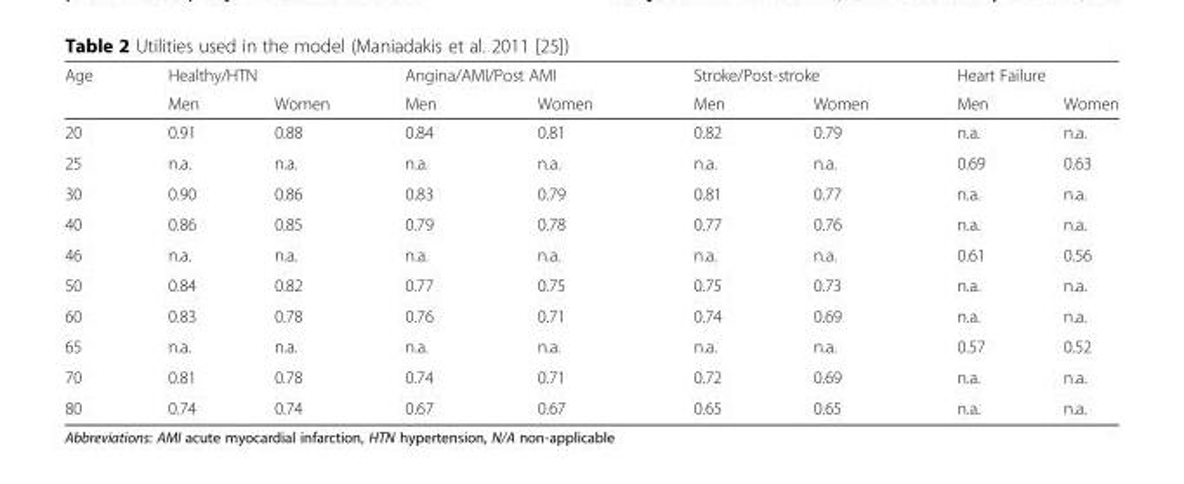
<table><thead><tr><td rowspan="2">Age</td><td colspan="2">Healthy/HTN</td><td colspan="2">Angina/AMI/Post AMI</td><td colspan="2">Stroke/Post-stroke</td><td colspan="2">Heart Failure</td></tr><tr><td>Men</td><td>Women</td><td>Men</td><td>Women</td><td>Men</td><td>Women</td><td>Men</td><td>Women</td></tr></thead><tbody><tr><td>20</td><td>0.91</td><td>0.88</td><td>0.84</td><td>0.81</td><td>0.82</td><td>0.79</td><td>n.a.</td><td>n.a.</td></tr><tr><td>25</td><td>n.a.</td><td>n.a.</td><td>n.a.</td><td>n.a.</td><td>n.a.</td><td>n.a.</td><td>0.69</td><td>0.63</td></tr><tr><td>30</td><td>0.90</td><td>0.86</td><td>0.83</td><td>0.79</td><td>0.81</td><td>0.77</td><td>n.a.</td><td>n.a.</td></tr><tr><td>40</td><td>0.86</td><td>0.85</td><td>0.79</td><td>0.78</td><td>0.77</td><td>0.76</td><td>n.a.</td><td>n.a.</td></tr><tr><td>46</td><td>n.a.</td><td>n.a.</td><td>n.a.</td><td>n.a.</td><td>n.a.</td><td>n.a.</td><td>0.61</td><td>0.56</td></tr><tr><td>50</td><td>0.84</td><td>0.82</td><td>0.77</td><td>0.75</td><td>0.75</td><td>0.73</td><td>n.a.</td><td>n.a.</td></tr><tr><td>60</td><td>0.83</td><td>0.78</td><td>0.76</td><td>0.71</td><td>0.74</td><td>0.69</td><td>n.a.</td><td>n.a.</td></tr><tr><td>65</td><td>n.a.</td><td>n.a.</td><td>n.a.</td><td>n.a.</td><td>n.a.</td><td>n.a.</td><td>0.57</td><td>0.52</td></tr><tr><td>70</td><td>0.81</td><td>0.78</td><td>0.74</td><td>0.71</td><td>0.72</td><td>0.69</td><td>n.a.</td><td>n.a.</td></tr><tr><td>80</td><td>0.74</td><td>0.74</td><td>0.67</td><td>0.67</td><td>0.65</td><td>0.65</td><td>n.a.</td><td>n.a.</td></tr></tbody></table>